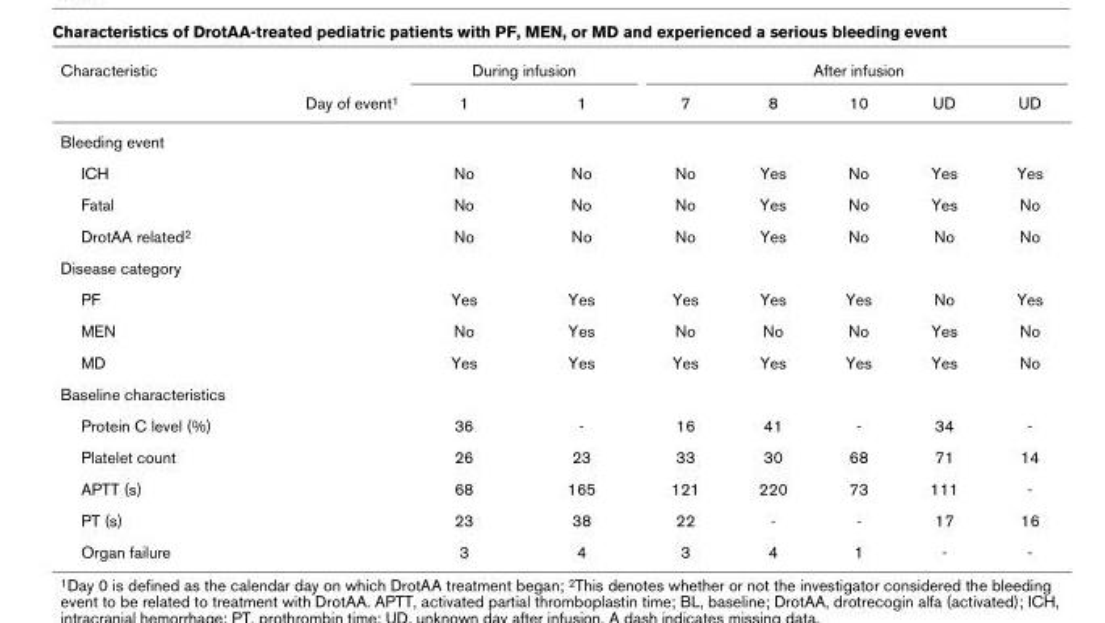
<table><thead><tr><td rowspan="2">Characteristic Day of event1</td><td colspan="2">During infusion</td><td rowspan="2">7</td><td colspan="3">After infusion</td><td rowspan="2">UD</td></tr><tr><td>1</td><td>1</td><td>8</td><td>10</td><td>UD</td></tr></thead><tbody><tr><td colspan="8">Bleeding event</td></tr><tr><td>ICH</td><td>No</td><td>No</td><td>No</td><td>Yes</td><td>No</td><td>Yes</td><td>Yes</td></tr><tr><td>Fatal</td><td>No</td><td>No</td><td>No</td><td>Yes</td><td>No</td><td>Yes</td><td>No</td></tr><tr><td>DrotAA related2</td><td>No</td><td>No</td><td>No</td><td>Yes</td><td>No</td><td>No</td><td>No</td></tr><tr><td colspan="8">Disease category</td></tr><tr><td>PF</td><td>Yes</td><td>Yes</td><td>Yes</td><td>Yes</td><td>Yes</td><td>No</td><td>Yes</td></tr><tr><td>MEN</td><td>No</td><td>Yes</td><td>No</td><td>No</td><td>No</td><td>Yes</td><td>No</td></tr><tr><td>MD</td><td>Yes</td><td>Yes</td><td>Yes</td><td>Yes</td><td>Yes</td><td>Yes</td><td>No</td></tr><tr><td colspan="8">Baseline characteristics</td></tr><tr><td>Protein C level (%)</td><td>36</td><td>-</td><td>16</td><td>41</td><td>-</td><td>34</td><td>-</td></tr><tr><td>Platelet count</td><td>26</td><td>23</td><td>33</td><td>30</td><td>68</td><td>71</td><td>14</td></tr><tr><td>APTT (s)</td><td>68</td><td>165</td><td>121</td><td>220</td><td>73</td><td>111</td><td>-</td></tr><tr><td>PT (s)</td><td>23</td><td>38</td><td>22</td><td>-</td><td>-</td><td>17</td><td>16</td></tr><tr><td>Organ failure</td><td>3</td><td>4</td><td>3</td><td>4</td><td>1</td><td>-</td><td>-</td></tr></tbody></table>